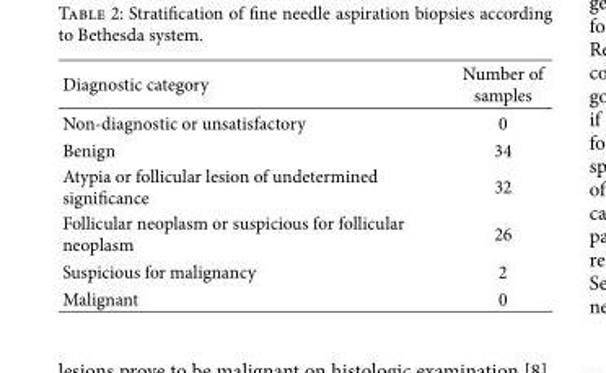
<table><thead><tr><td>Diagnostic category</td><td>Number of samples</td></tr></thead><tbody><tr><td>Non-diagnostic or unsatisfactory</td><td>0</td></tr><tr><td>Benign</td><td>34</td></tr><tr><td>Atypia or follicular lesion of undetermined significance</td><td>32</td></tr><tr><td>Follicular neoplasm or suspicious for follicular neoplasm</td><td>26</td></tr><tr><td>Suspicious for malignancy</td><td>2</td></tr><tr><td>Malignant</td><td>0</td></tr></tbody></table>